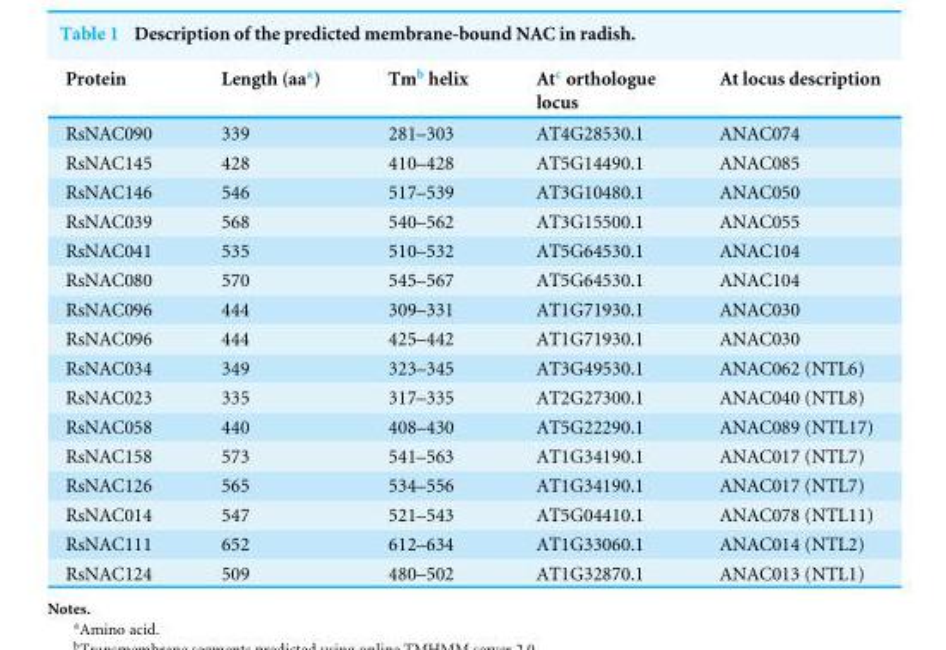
<table><thead><tr><td>Protein</td><td>Length (aa<sup>a</sup>)</td><td>Tm<sup>b</sup> helix</td><td>At<sup>c</sup> orthologue locus</td><td>At locus description</td></tr></thead><tbody><tr><td>RsNAC090</td><td>339</td><td>281–303</td><td>AT4G28530.1</td><td>ANAC074</td></tr><tr><td>RsNAC145</td><td>428</td><td>410–428</td><td>AT5G14490.1</td><td>ANAC085</td></tr><tr><td>RsNAC146</td><td>546</td><td>517–539</td><td>AT3G10480.1</td><td>ANAC050</td></tr><tr><td>RsNAC039</td><td>568</td><td>540–562</td><td>AT3G15500.1</td><td>ANAC055</td></tr><tr><td>RsNAC041</td><td>535</td><td>510–532</td><td>AT5G64530.1</td><td>ANAC104</td></tr><tr><td>RsNAC080</td><td>570</td><td>545–567</td><td>AT5G64530.1</td><td>ANAC104</td></tr><tr><td>RsNAC096</td><td>444</td><td>309–331</td><td>AT1G71930.1</td><td>ANAC030</td></tr><tr><td>RsNAC096</td><td>444</td><td>425–442</td><td>AT1G71930.1</td><td>ANAC030</td></tr><tr><td>RsNAC034</td><td>349</td><td>323–345</td><td>AT3G49530.1</td><td>ANAC062 (NTL6)</td></tr><tr><td>RsNAC023</td><td>335</td><td>317–335</td><td>AT2G27300.1</td><td>ANAC040 (NTL8)</td></tr><tr><td>RsNAC058</td><td>440</td><td>408–430</td><td>AT5G22290.1</td><td>ANAC089 (NTL17)</td></tr><tr><td>RsNAC158</td><td>573</td><td>541–563</td><td>AT1G34190.1</td><td>ANAC017 (NTL7)</td></tr><tr><td>RsNAC126</td><td>565</td><td>534–556</td><td>AT1G34190.1</td><td>ANAC017 (NTL7)</td></tr><tr><td>RsNAC014</td><td>547</td><td>521–543</td><td>AT5G04410.1</td><td>ANAC078 (NTL11)</td></tr><tr><td>RsNAC111</td><td>652</td><td>612–634</td><td>AT1G33060.1</td><td>ANAC014 (NTL2)</td></tr><tr><td>RsNAC124</td><td>509</td><td>480–502</td><td>AT1G32870.1</td><td>ANAC013 (NTL1)</td></tr></tbody></table>